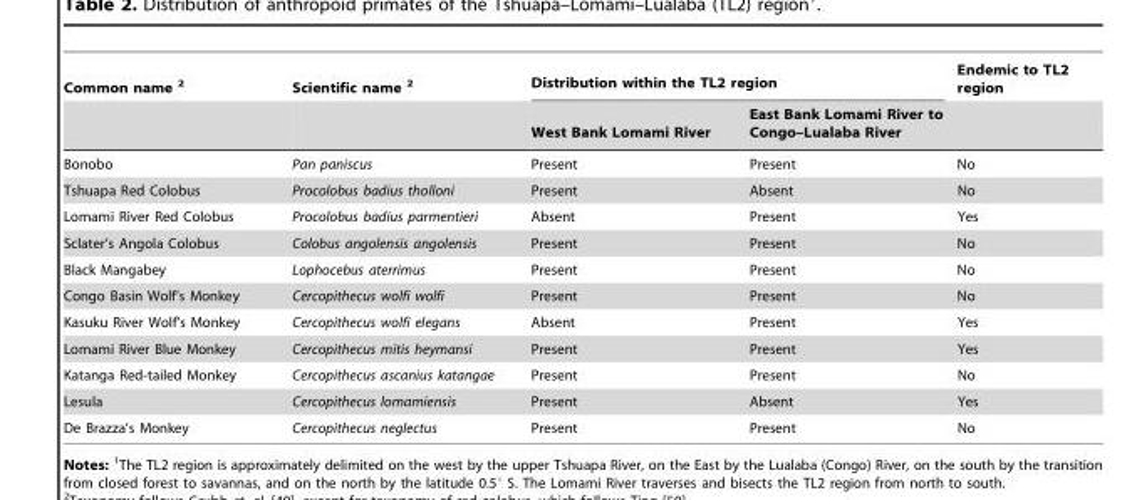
<table><thead><tr><td rowspan="2">Common name 2</td><td rowspan="2">Scientific name 2</td><td colspan="2">Distribution within the TL2 region</td><td rowspan="2">Endemic to TL2 region</td></tr><tr><td>West Bank Lomami River</td><td>East Bank Lomami River to Congo–Lualaba River</td></tr></thead><tbody><tr><td>Bonobo</td><td>Pan paniscus</td><td>Present</td><td>Present</td><td>No</td></tr><tr><td>Tshuapa Red Colobus</td><td>Procolobus badius tholloni</td><td>Present</td><td>Absent</td><td>No</td></tr><tr><td>Lomami River Red Colobus</td><td>Procolobus badius parmentieri</td><td>Absent</td><td>Present</td><td>Yes</td></tr><tr><td>Sclater’s Angola Colobus</td><td>Colobus angolensis angolensis</td><td>Present</td><td>Present</td><td>No</td></tr><tr><td>Black Mangabey</td><td>Lophocebus aterrimus</td><td>Present</td><td>Present</td><td>No</td></tr><tr><td>Congo Basin Wolf’s Monkey</td><td>Cercopithecus wolfi wolfi</td><td>Present</td><td>Present</td><td>No</td></tr><tr><td>Kasuku River Wolf’s Monkey</td><td>Cercopithecus wolfi elegans</td><td>Absent</td><td>Present</td><td>Yes</td></tr><tr><td>Lomami River Blue Monkey</td><td>Cercopithecus mitis heymansi</td><td>Present</td><td>Present</td><td>Yes</td></tr><tr><td>Katanga Red-tailed Monkey</td><td>Cercopithecus ascanius katangae</td><td>Present</td><td>Present</td><td>No</td></tr><tr><td>Lesula</td><td>Cercopithecus lomamiensis</td><td>Present</td><td>Absent</td><td>Yes</td></tr><tr><td>De Brazza’s Monkey</td><td>Cercopithecus neglectus</td><td>Present</td><td>Present</td><td>No</td></tr></tbody></table>